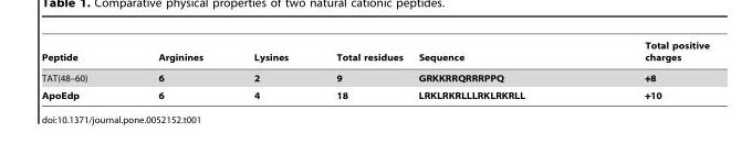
<table><thead><tr><td>Peptide</td><td>Arginines</td><td>Lysines</td><td>Total residues</td><td>Sequence</td><td>Total positive charges</td></tr></thead><tbody><tr><td>TAT(48–60)</td><td>6</td><td>2</td><td>9</td><td>GRKKRRQRRRPPQ</td><td>+8</td></tr><tr><td>ApoEdp</td><td>6</td><td>4</td><td>18</td><td>LRKLRKRLLLRKLRKRLL</td><td>+10</td></tr></tbody></table>